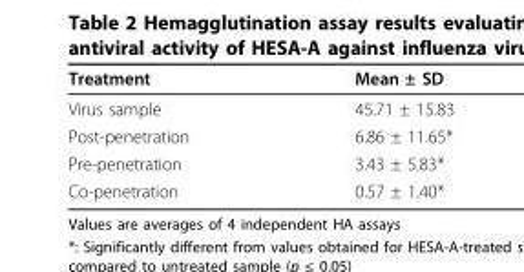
<table><thead><tr><td>Treatment</td><td>Mean ± SD</td></tr></thead><tbody><tr><td>Virus sample</td><td>45.71 ± 15.83</td></tr><tr><td>Post-penetration</td><td>6.86 ± 11.65*</td></tr><tr><td>Pre-penetration</td><td>3.43 ± 5.83*</td></tr><tr><td>Co-penetration</td><td>0.57 ± 1.40*</td></tr></tbody></table>